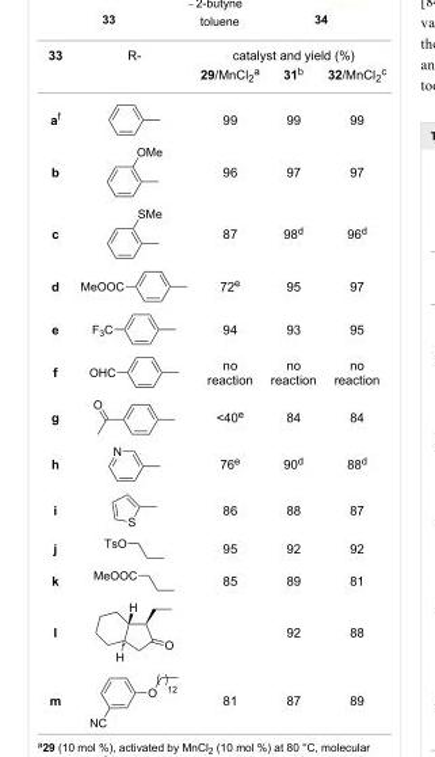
<table><tbody><tr><td>33</td><td>R-</td><td colspan="3">catalyst and yield (%)</td></tr><tr><td colspan="2"></td><td>29/MnCl<sub>2</sub><sup>a</sup></td><td>31<sup>b</sup></td><td>32/MnCl<sub>2</sub><sup>c</sup></td></tr><tr><td>a<sup>f</sup></td><td></td><td>99</td><td>99</td><td>99</td></tr><tr><td>b</td><td></td><td>96</td><td>97</td><td>97</td></tr><tr><td>c</td><td></td><td>87</td><td>98<sup>d</sup></td><td>96<sup>d</sup></td></tr><tr><td>d</td><td></td><td>72<sup>e</sup></td><td>95</td><td>97</td></tr><tr><td>e</td><td></td><td>94</td><td>93</td><td>95</td></tr><tr><td>f</td><td></td><td>no reaction</td><td>no reaction</td><td>no reaction</td></tr><tr><td>g</td><td></td><td>&lt;40<sup>e</sup></td><td>84</td><td>84</td></tr><tr><td>h</td><td></td><td>76<sup>e</sup></td><td>90<sup>d</sup></td><td>88<sup>d</sup></td></tr><tr><td>i</td><td></td><td>86</td><td>88</td><td>87</td></tr><tr><td>j</td><td></td><td>95</td><td>92</td><td>92</td></tr><tr><td>k</td><td></td><td>85</td><td>89</td><td>81</td></tr><tr><td>l</td><td></td><td></td><td>92</td><td>88</td></tr><tr><td>m</td><td></td><td>81</td><td>87</td><td>89</td></tr></tbody></table>